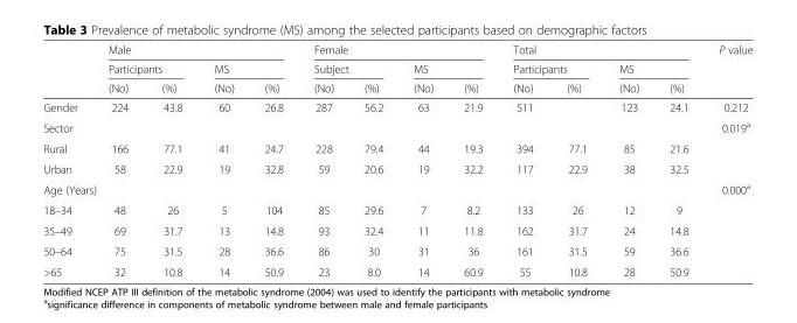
<table><thead><tr><td rowspan="3"></td><td colspan="4">Male</td><td colspan="4">Female</td><td colspan="4">Total</td><td rowspan="3">P value</td></tr><tr><td colspan="2">Participants</td><td colspan="2">MS</td><td colspan="2">Subject</td><td colspan="2">MS</td><td colspan="2">Participants</td><td colspan="2">MS</td></tr><tr><td>(No)</td><td>(%)</td><td>(No)</td><td>(%)</td><td>(No)</td><td>(%)</td><td>(No)</td><td>(%)</td><td>(No)</td><td>(%)</td><td>(No)</td><td>(%)</td></tr></thead><tbody><tr><td>Gender</td><td>224</td><td>43.8</td><td>60</td><td>26.8</td><td>287</td><td>56.2</td><td>63</td><td>21.9</td><td>511</td><td></td><td>123</td><td>24.1</td><td>0.212</td></tr><tr><td>Sector</td><td></td><td></td><td></td><td></td><td></td><td></td><td></td><td></td><td></td><td></td><td></td><td></td><td>0.019<sup>a</sup></td></tr><tr><td>Rural</td><td>166</td><td>77.1</td><td>41</td><td>24.7</td><td>228</td><td>79.4</td><td>44</td><td>19.3</td><td>394</td><td>77.1</td><td>85</td><td>21.6</td><td></td></tr><tr><td>Urban</td><td>58</td><td>22.9</td><td>19</td><td>32.8</td><td>59</td><td>20.6</td><td>19</td><td>32.2</td><td>117</td><td>22.9</td><td>38</td><td>32.5</td><td></td></tr><tr><td colspan="3">Age (Years)</td><td></td><td></td><td></td><td></td><td></td><td></td><td></td><td></td><td></td><td></td><td>0.000<sup>a</sup></td></tr><tr><td>18–34</td><td>48</td><td>26</td><td>5</td><td>104</td><td>85</td><td>29.6</td><td>7</td><td>8.2</td><td>133</td><td>26</td><td>12</td><td>9</td><td></td></tr><tr><td>35–49</td><td>69</td><td>31.7</td><td>13</td><td>14.8</td><td>93</td><td>32.4</td><td>11</td><td>11.8</td><td>162</td><td>31.7</td><td>24</td><td>14.8</td><td></td></tr><tr><td>50–64</td><td>75</td><td>31.5</td><td>28</td><td>36.6</td><td>86</td><td>30</td><td>31</td><td>36</td><td>161</td><td>31.5</td><td>59</td><td>36.6</td><td></td></tr><tr><td>&gt;65</td><td>32</td><td>10.8</td><td>14</td><td>50.9</td><td>23</td><td>8.0</td><td>14</td><td>60.9</td><td>55</td><td>10.8</td><td>28</td><td>50.9</td><td></td></tr></tbody></table>